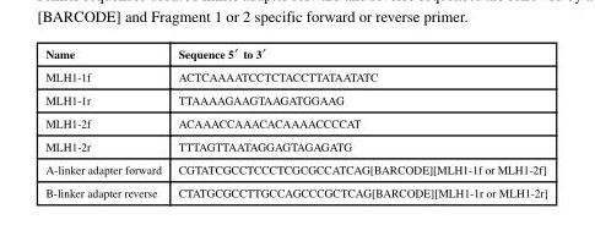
<table><thead><tr><td>Name</td><td>Sequence 5′ to 3′</td></tr></thead><tbody><tr><td>MLH1-1f</td><td>ACTCAAAATCCTCTACCTTATAATATC</td></tr><tr><td>MLH1-1r</td><td>TTAAAAGAAGTAAGATGGAAG</td></tr><tr><td>MLH1-2f</td><td>ACAAACCAAACACAAAACCCCAT</td></tr><tr><td>MLH1-2r</td><td>TTTAGTTAATAGGAGTAGAGATG</td></tr><tr><td>A-linker adapter forward</td><td>CGTATCGCCTCCCTCGCGCCATCAG[BARCODE][MLH1-1f or MLH1-2f]</td></tr><tr><td>B-linker adapter reverse</td><td>CTATGCGCCTTGCCAGCCCGCTCAG[BARCODE][MLH1-1r or MLH1-2r]</td></tr></tbody></table>